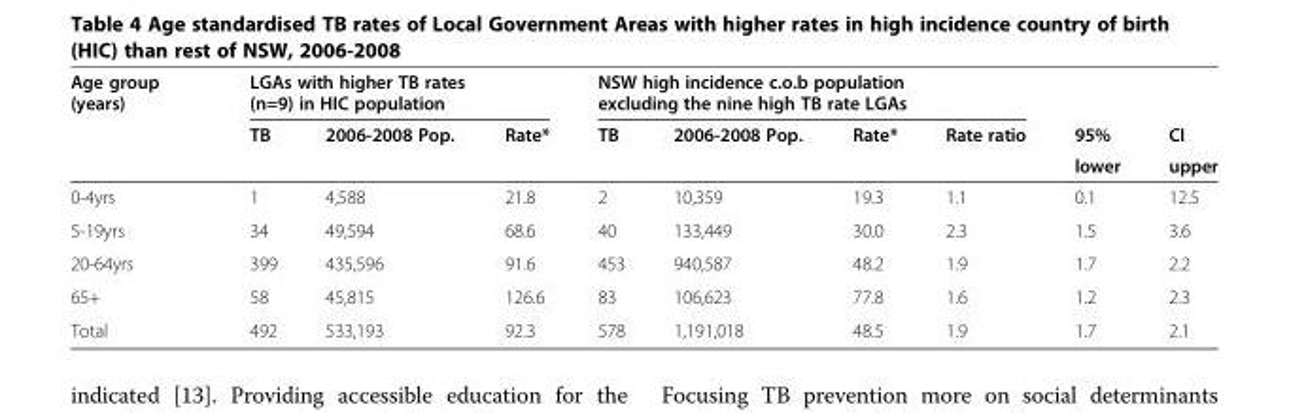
<table><thead><tr><td rowspan="3">Age group (years)</td><td colspan="3">LGAs with higher TB rates (n=9) in HIC population</td><td colspan="4">NSW high incidence c.o.b population excluding the nine high TB rate LGAs</td><td rowspan="3">95% lower</td><td rowspan="3">CI upper</td></tr><tr><td rowspan="2">TB</td><td rowspan="2">2006-2008 Pop.</td><td rowspan="2">Rate*</td><td rowspan="2">TB</td><td rowspan="2">2006-2008 Pop.</td><td rowspan="2">Rate*</td><td rowspan="2">Rate ratio</td></tr><tr></tr></thead><tbody><tr><td>0-4yrs</td><td>1</td><td>4,588</td><td>21.8</td><td>2</td><td>10,359</td><td>19.3</td><td>1.1</td><td>0.1</td><td>12.5</td></tr><tr><td>5-19yrs</td><td>34</td><td>49,594</td><td>68.6</td><td>40</td><td>133,449</td><td>30.0</td><td>2.3</td><td>1.5</td><td>3.6</td></tr><tr><td>20-64yrs</td><td>399</td><td>435,596</td><td>91.6</td><td>453</td><td>940,587</td><td>48.2</td><td>1.9</td><td>1.7</td><td>2.2</td></tr><tr><td>65+</td><td>58</td><td>45,815</td><td>126.6</td><td>83</td><td>106,623</td><td>77.8</td><td>1.6</td><td>1.2</td><td>2.3</td></tr><tr><td>Total</td><td>492</td><td>533,193</td><td>92.3</td><td>578</td><td>1,191,018</td><td>48.5</td><td>1.9</td><td>1.7</td><td>2.1</td></tr></tbody></table>